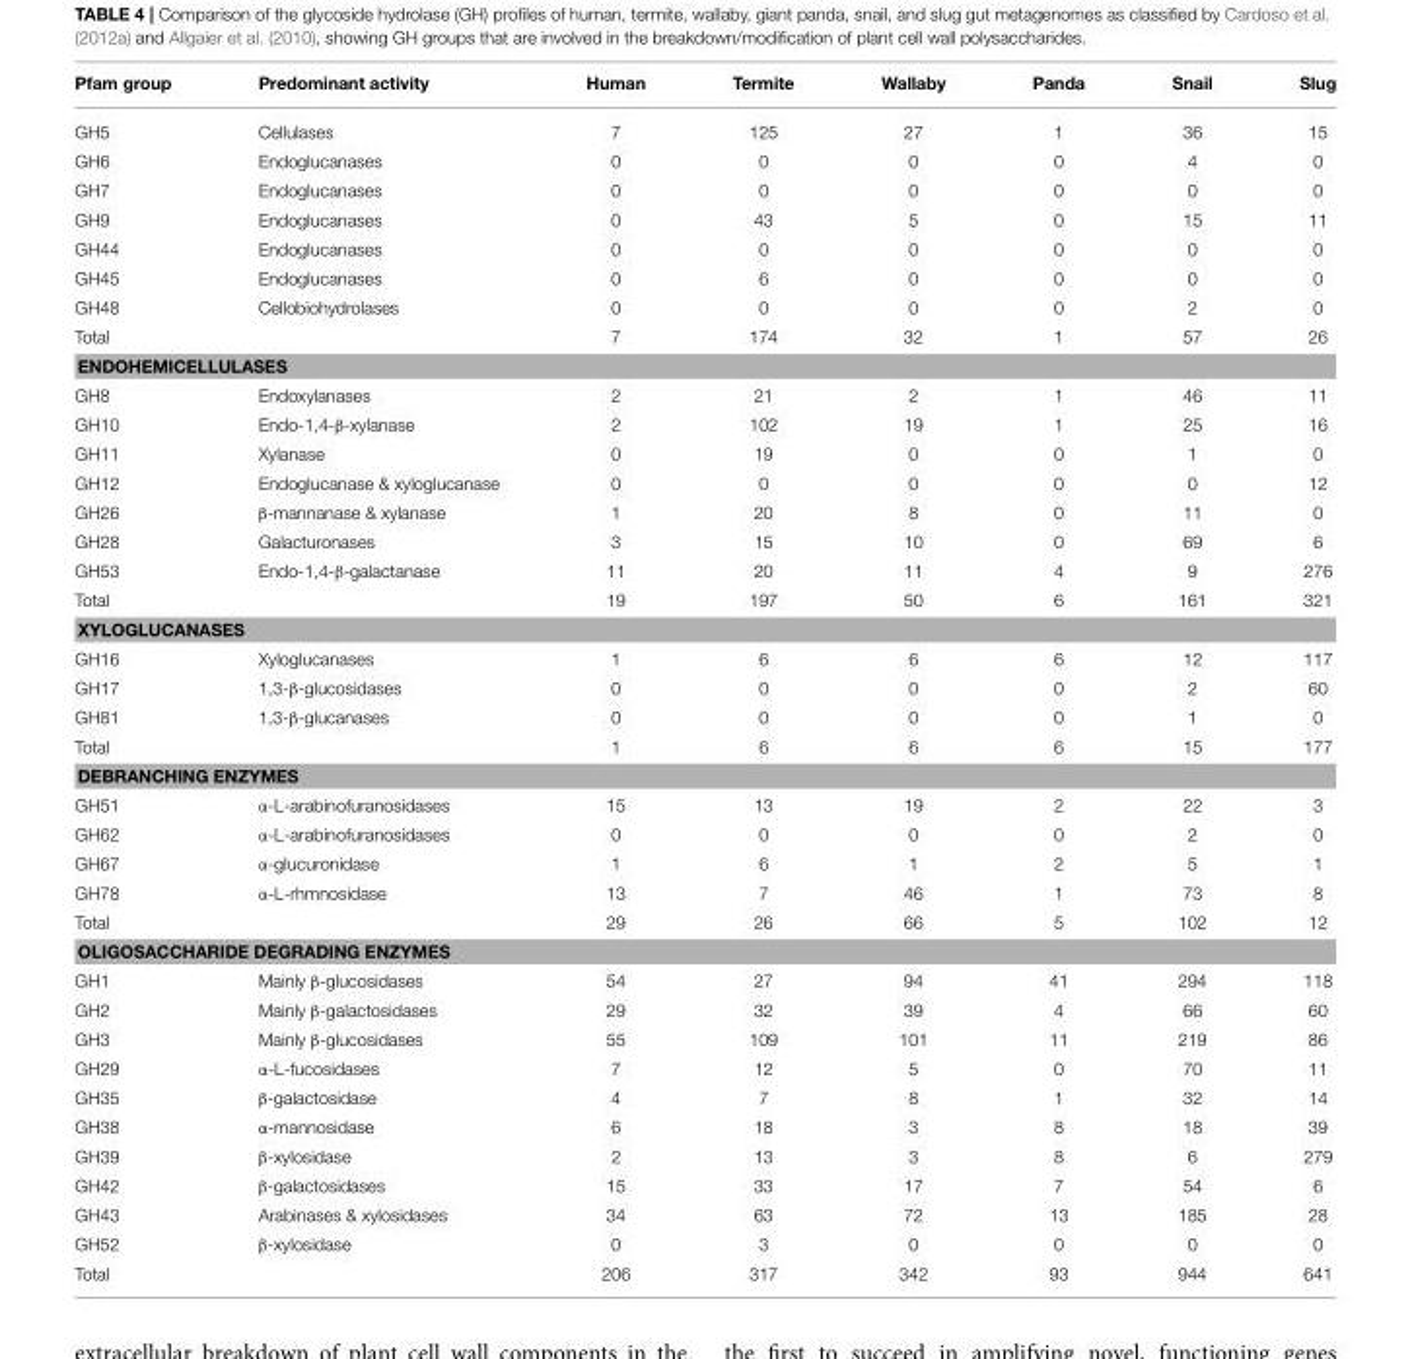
<table><thead><tr><td>Pfam group</td><td>Predominant activity</td><td>Human</td><td>Termite</td><td>Wallaby</td><td>Panda</td><td>Snail</td><td>Slug</td></tr></thead><tbody><tr><td>GH5</td><td>Cellulases</td><td>7</td><td>125</td><td>27</td><td>1</td><td>36</td><td>15</td></tr><tr><td>GH6</td><td>Endoglucanases</td><td>0</td><td>0</td><td>0</td><td>0</td><td>4</td><td>0</td></tr><tr><td>GH7</td><td>Endoglucanases</td><td>0</td><td>0</td><td>0</td><td>0</td><td>0</td><td>0</td></tr><tr><td>GH9</td><td>Endoglucanases</td><td>0</td><td>43</td><td>5</td><td>0</td><td>15</td><td>11</td></tr><tr><td>GH44</td><td>Endoglucanases</td><td>0</td><td>0</td><td>0</td><td>0</td><td>0</td><td>0</td></tr><tr><td>GH45</td><td>Endoglucanases</td><td>0</td><td>6</td><td>0</td><td>0</td><td>0</td><td>0</td></tr><tr><td>GH48</td><td>Cellobiohydrolases</td><td>0</td><td>0</td><td>0</td><td>0</td><td>2</td><td>0</td></tr><tr><td>Total</td><td></td><td>7</td><td>174</td><td>32</td><td>1</td><td>57</td><td>26</td></tr><tr><td colspan="8">ENDOHEMICELLULASES</td></tr><tr><td>GH8</td><td>Endoxylanases</td><td>2</td><td>21</td><td>2</td><td>1</td><td>46</td><td>11</td></tr><tr><td>GH10</td><td>Endo-1,4-β-xylanase</td><td>2</td><td>102</td><td>19</td><td>1</td><td>25</td><td>16</td></tr><tr><td>GH11</td><td>Xylanase</td><td>0</td><td>19</td><td>0</td><td>0</td><td>1</td><td>0</td></tr><tr><td>GH12</td><td>Endoglucanase &amp; xyloglucanase</td><td>0</td><td>0</td><td>0</td><td>0</td><td>0</td><td>12</td></tr><tr><td>GH26</td><td>β-mannanase &amp; xylanase</td><td>1</td><td>20</td><td>8</td><td>0</td><td>11</td><td>0</td></tr><tr><td>GH28</td><td>Galacturonases</td><td>3</td><td>15</td><td>10</td><td>0</td><td>69</td><td>6</td></tr><tr><td>GH53</td><td>Endo-1,4-β-galactanase</td><td>11</td><td>20</td><td>11</td><td>4</td><td>9</td><td>276</td></tr><tr><td>Total</td><td></td><td>19</td><td>197</td><td>50</td><td>6</td><td>161</td><td>321</td></tr><tr><td colspan="8">XYLOGLUCANASES</td></tr><tr><td>GH16</td><td>Xyloglucanases</td><td>1</td><td>6</td><td>6</td><td>6</td><td>12</td><td>117</td></tr><tr><td>GH17</td><td>1,3-β-glucosidases</td><td>0</td><td>0</td><td>0</td><td>0</td><td>2</td><td>60</td></tr><tr><td>GH81</td><td>1,3-β-glucanases</td><td>0</td><td>0</td><td>0</td><td>0</td><td>1</td><td>0</td></tr><tr><td>Total</td><td></td><td>1</td><td>6</td><td>6</td><td>6</td><td>15</td><td>177</td></tr><tr><td colspan="8">DEBRANCHING ENZYMES</td></tr><tr><td>GH51</td><td>α-L-arabinofuranosidases</td><td>15</td><td>13</td><td>19</td><td>2</td><td>22</td><td>3</td></tr><tr><td>GH62</td><td>α-L-arabinofuranosidases</td><td>0</td><td>0</td><td>0</td><td>0</td><td>2</td><td>0</td></tr><tr><td>GH67</td><td>α-glucuronidase</td><td>1</td><td>6</td><td>1</td><td>2</td><td>5</td><td>1</td></tr><tr><td>GH78</td><td>α-L-rhmnosidase</td><td>13</td><td>7</td><td>46</td><td>1</td><td>73</td><td>8</td></tr><tr><td>Total</td><td></td><td>29</td><td>26</td><td>66</td><td>5</td><td>102</td><td>12</td></tr><tr><td colspan="8">OLIGOSACCHARIDE DEGRADING ENZYMES</td></tr><tr><td>GH1</td><td>Mainly β-glucosidases</td><td>54</td><td>27</td><td>94</td><td>41</td><td>294</td><td>118</td></tr><tr><td>GH2</td><td>Mainly β-galactosidases</td><td>29</td><td>32</td><td>39</td><td>4</td><td>66</td><td>60</td></tr><tr><td>GH3</td><td>Mainly β-glucosidases</td><td>55</td><td>109</td><td>101</td><td>11</td><td>219</td><td>86</td></tr><tr><td>GH29</td><td>α-L-fucosidases</td><td>7</td><td>12</td><td>5</td><td>0</td><td>70</td><td>11</td></tr><tr><td>GH35</td><td>β-galactosidase</td><td>4</td><td>7</td><td>8</td><td>1</td><td>32</td><td>14</td></tr><tr><td>GH38</td><td>α-mannosidase</td><td>6</td><td>18</td><td>3</td><td>8</td><td>18</td><td>39</td></tr><tr><td>GH39</td><td>β-xylosidase</td><td>2</td><td>13</td><td>3</td><td>8</td><td>6</td><td>279</td></tr><tr><td>GH42</td><td>β-galactosidases</td><td>15</td><td>33</td><td>17</td><td>7</td><td>54</td><td>6</td></tr><tr><td>GH43</td><td>Arabinases &amp; xylosidases</td><td>34</td><td>63</td><td>72</td><td>13</td><td>185</td><td>28</td></tr><tr><td>GH52</td><td>β-xylosidase</td><td>0</td><td>3</td><td>0</td><td>0</td><td>0</td><td>0</td></tr><tr><td>Total</td><td></td><td>206</td><td>317</td><td>342</td><td>93</td><td>944</td><td>641</td></tr></tbody></table>